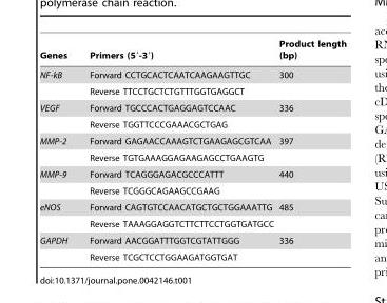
<table><thead><tr><td>Genes</td><td>Primers (5′-3′)</td><td>Product length (bp)</td></tr></thead><tbody><tr><td rowspan="2">NF-kB</td><td>Forward CCTGCACTCAATCAAGAAGTTGC</td><td>300</td></tr><tr><td>Reverse TTCCTGCTCTGTTTGGTGAGGCT</td><td></td></tr><tr><td rowspan="2">VEGF</td><td>Forward TGCCCACTGAGGAGTCCAAC</td><td>336</td></tr><tr><td>Reverse TGGTTCCCGAAACGCTGAG</td><td></td></tr><tr><td rowspan="2">MMP-2</td><td>Forward GAGAACCAAAGTCTGAAGAGCGTCAA</td><td>397</td></tr><tr><td>Reverse TGTGAAAGGAGAAGAGCCTGAAGTG</td><td></td></tr><tr><td rowspan="2">MMP-9</td><td>Forward TCAGGGAGACGCCCATTT</td><td>440</td></tr><tr><td>Reverse TCGGGCAGAAGCCGAAG</td><td></td></tr><tr><td rowspan="2">eNOS</td><td>Forward CAGTGTCCAACATGCTGCTGGAAATTG</td><td>485</td></tr><tr><td>Reverse TAAAGGAGGTCTTCTTCCTGGTGATGCC</td><td></td></tr><tr><td rowspan="2">GAPDH</td><td>Forward AACGGATTTGGTCGTATTGGG</td><td>336</td></tr><tr><td>Reverse TCGCTCCTGGAAGATGGTGAT</td><td></td></tr></tbody></table>